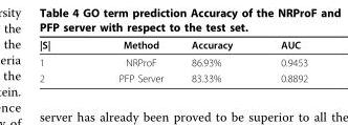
<table><thead><tr><td>|S|</td><td>Method</td><td>Accuracy</td><td>AUC</td></tr></thead><tbody><tr><td>1</td><td>NRProF</td><td>86.93%</td><td>0.9453</td></tr><tr><td>2</td><td>PFP Server</td><td>83.33%</td><td>0.8892</td></tr></tbody></table>